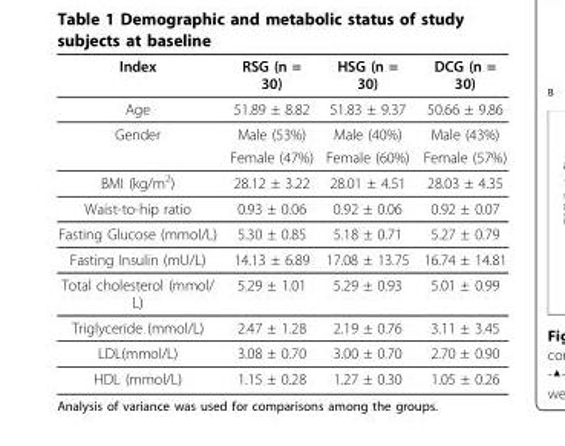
<table><thead><tr><td>Index</td><td>RSG (n = 30)</td><td>HSG (n = 30)</td><td>DCG (n = 30)</td></tr></thead><tbody><tr><td>Age</td><td>51.89 ± 8.82</td><td>51.83 ± 9.37</td><td>50.66 ± 9.86</td></tr><tr><td rowspan="2">Gender</td><td>Male (53%)</td><td>Male (40%)</td><td>Male (43%)</td></tr><tr><td>Female (47%)</td><td>Female (60%)</td><td>Female (57%)</td></tr><tr><td>BMI (kg/m2)</td><td>28.12 ± 3.22</td><td>28.01 ± 4.51</td><td>28.03 ± 4.35</td></tr><tr><td>Waist-to-hip ratio</td><td>0.93 ± 0.06</td><td>0.92 ± 0.06</td><td>0.92 ± 0.07</td></tr><tr><td>Fasting Glucose (mmol/L)</td><td>5.30 ± 0.85</td><td>5.18 ± 0.71</td><td>5.27 ± 0.79</td></tr><tr><td>Fasting Insulin (mU/L)</td><td>14.13 ± 6.89</td><td>17.08 ± 13.75</td><td>16.74 ± 14.81</td></tr><tr><td>Total cholesterol (mmol/ L)</td><td>5.29 ± 1.01</td><td>5.29 ± 0.93</td><td>5.01 ± 0.99</td></tr><tr><td>Triglyceride (mmol/L)</td><td>2.47 ± 1.28</td><td>2.19 ± 0.76</td><td>3.11 ± 3.45</td></tr><tr><td>LDL(mmol/L)</td><td>3.08 ± 0.70</td><td>3.00 ± 0.70</td><td>2.70 ± 0.90</td></tr><tr><td>HDL (mmol/L)</td><td>1.15 ± 0.28</td><td>1.27 ± 0.30</td><td>1.05 ± 0.26</td></tr></tbody></table>